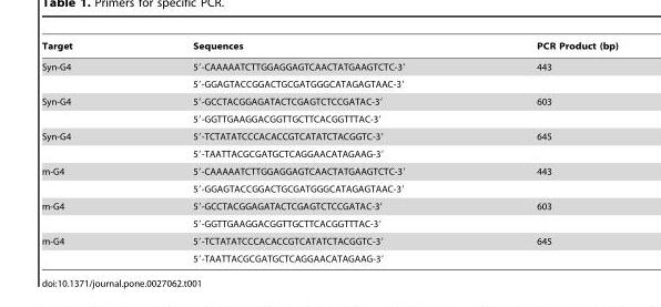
<table><thead><tr><td>Target</td><td>Sequences</td><td>PCR Product (bp)</td></tr></thead><tbody><tr><td rowspan="2">Syn-G4</td><td>5′-CAAAAATCTTGGAGGAGTCAACTATGAAGTCTC-3′</td><td>443</td></tr><tr><td>5′-GGAGTACCGGACTGCGATGGGCATAGAGTAAC-3′</td><td></td></tr><tr><td rowspan="2">Syn-G4</td><td>5′-GCCTACGGAGATACTCGAGTCTCCGATAC-3′</td><td>603</td></tr><tr><td>5′-GGTTGAAGGACGGTTGCTTCACGGTTTAC-3′</td><td></td></tr><tr><td rowspan="2">Syn-G4</td><td>5′-TCTATATCCCACACCGTCATATCTACGGTC-3′</td><td>645</td></tr><tr><td>5′-TAATTACGCGATGCTCAGGAACATAGAAG-3′</td><td></td></tr><tr><td rowspan="2">m-G4</td><td>5′-CAAAAATCTTGGAGGAGTCAACTATGAAGTCTC-3′</td><td>443</td></tr><tr><td>5′-GGAGTACCGGACTGCGATGGGCATAGAGTAAC-3′</td><td></td></tr><tr><td rowspan="2">m-G4</td><td>5′-GCCTACGGAGATACTCGAGTCTCCGATAC-3′</td><td>603</td></tr><tr><td>5′-GGTTGAAGGACGGTTGCTTCACGGTTTAC-3′</td><td></td></tr><tr><td rowspan="2">m-G4</td><td>5′-TCTATATCCCACACCGTCATATCTACGGTC-3′</td><td>645</td></tr><tr><td>5′-TAATTACGCGATGCTCAGGAACATAGAAG-3′</td><td></td></tr></tbody></table>